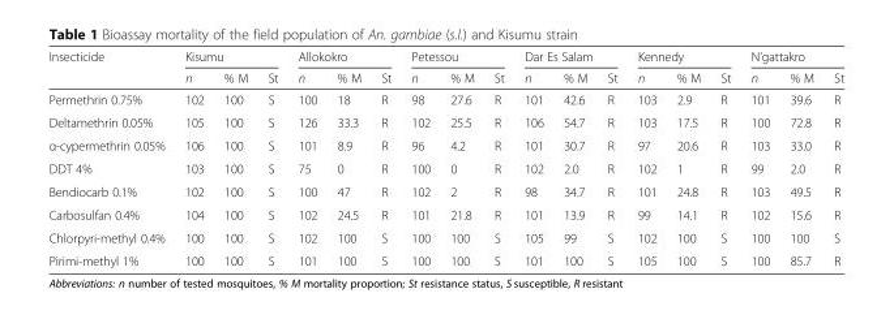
<table><thead><tr><td rowspan="2">Insecticide</td><td colspan="3">Kisumu</td><td colspan="3">Allokokro</td><td colspan="3">Petessou</td><td colspan="3">Dar Es Salam</td><td colspan="3">Kennedy</td><td colspan="3">N’gattakro</td></tr><tr><td>n</td><td>% M</td><td>St</td><td>n</td><td>% M</td><td>St</td><td>n</td><td>% M</td><td>St</td><td>n</td><td>% M</td><td>St</td><td>n</td><td>% M</td><td>St</td><td>n</td><td>% M</td><td>St</td></tr></thead><tbody><tr><td>Permethrin 0.75%</td><td>102</td><td>100</td><td>S</td><td>100</td><td>18</td><td>R</td><td>98</td><td>27.6</td><td>R</td><td>101</td><td>42.6</td><td>R</td><td>103</td><td>2.9</td><td>R</td><td>101</td><td>39.6</td><td>R</td></tr><tr><td>Deltamethrin 0.05%</td><td>105</td><td>100</td><td>S</td><td>126</td><td>33.3</td><td>R</td><td>102</td><td>25.5</td><td>R</td><td>106</td><td>54.7</td><td>R</td><td>103</td><td>17.5</td><td>R</td><td>100</td><td>72.8</td><td>R</td></tr><tr><td>α-cypermethrin 0.05%</td><td>106</td><td>100</td><td>S</td><td>101</td><td>8.9</td><td>R</td><td>96</td><td>4.2</td><td>R</td><td>101</td><td>30.7</td><td>R</td><td>97</td><td>20.6</td><td>R</td><td>103</td><td>33.0</td><td>R</td></tr><tr><td>DDT 4%</td><td>103</td><td>100</td><td>S</td><td>75</td><td>0</td><td>R</td><td>100</td><td>0</td><td>R</td><td>102</td><td>2.0</td><td>R</td><td>102</td><td>1</td><td>R</td><td>99</td><td>2.0</td><td>R</td></tr><tr><td>Bendiocarb 0.1%</td><td>102</td><td>100</td><td>S</td><td>100</td><td>47</td><td>R</td><td>102</td><td>2</td><td>R</td><td>98</td><td>34.7</td><td>R</td><td>101</td><td>24.8</td><td>R</td><td>103</td><td>49.5</td><td>R</td></tr><tr><td>Carbosulfan 0.4%</td><td>104</td><td>100</td><td>S</td><td>102</td><td>24.5</td><td>R</td><td>101</td><td>21.8</td><td>R</td><td>101</td><td>13.9</td><td>R</td><td>99</td><td>14.1</td><td>R</td><td>102</td><td>15.6</td><td>R</td></tr><tr><td>Chlorpyri-methyl 0.4%</td><td>100</td><td>100</td><td>S</td><td>102</td><td>100</td><td>S</td><td>100</td><td>100</td><td>S</td><td>105</td><td>99</td><td>S</td><td>102</td><td>100</td><td>S</td><td>100</td><td>100</td><td>S</td></tr><tr><td>Pirimi-methyl 1%</td><td>100</td><td>100</td><td>S</td><td>101</td><td>100</td><td>S</td><td>100</td><td>100</td><td>S</td><td>101</td><td>100</td><td>S</td><td>105</td><td>100</td><td>S</td><td>100</td><td>85.7</td><td>R</td></tr></tbody></table>